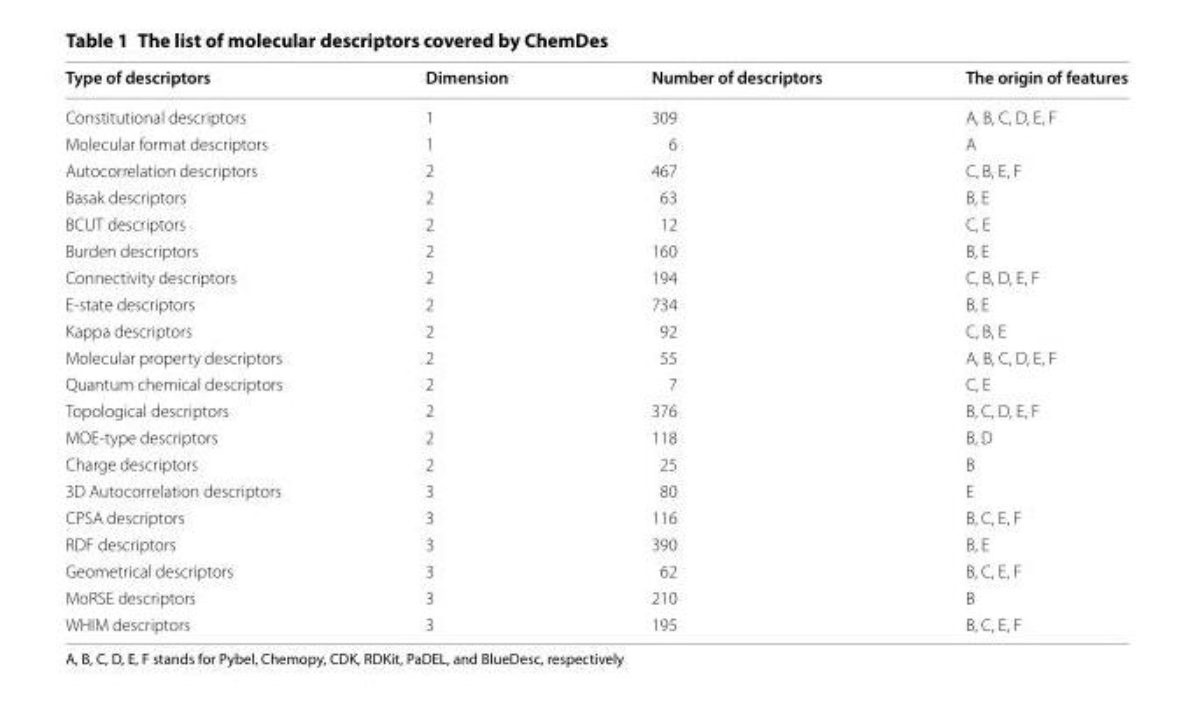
<table><thead><tr><td>Type of descriptors</td><td>Dimension</td><td>Number of descriptors</td><td>The origin of features</td></tr></thead><tbody><tr><td>Constitutional descriptors</td><td>1</td><td>309</td><td>A, B, C, D, E, F</td></tr><tr><td>Molecular format descriptors</td><td>1</td><td>6</td><td>A</td></tr><tr><td>Autocorrelation descriptors</td><td>2</td><td>467</td><td>C, B, E, F</td></tr><tr><td>Basak descriptors</td><td>2</td><td>63</td><td>B, E</td></tr><tr><td>BCUT descriptors</td><td>2</td><td>12</td><td>C, E</td></tr><tr><td>Burden descriptors</td><td>2</td><td>160</td><td>B, E</td></tr><tr><td>Connectivity descriptors</td><td>2</td><td>194</td><td>C, B, D, E, F</td></tr><tr><td>E‑state descriptors</td><td>2</td><td>734</td><td>B, E</td></tr><tr><td>Kappa descriptors</td><td>2</td><td>92</td><td>C, B, E</td></tr><tr><td>Molecular property descriptors</td><td>2</td><td>55</td><td>A, B, C, D, E, F</td></tr><tr><td>Quantum chemical descriptors</td><td>2</td><td>7</td><td>C, E</td></tr><tr><td>Topological descriptors</td><td>2</td><td>376</td><td>B, C, D, E, F</td></tr><tr><td>MOE‑type descriptors</td><td>2</td><td>118</td><td>B, D</td></tr><tr><td>Charge descriptors</td><td>2</td><td>25</td><td>B</td></tr><tr><td>3D Autocorrelation descriptors</td><td>3</td><td>80</td><td>E</td></tr><tr><td>CPSA descriptors</td><td>3</td><td>116</td><td>B, C, E, F</td></tr><tr><td>RDF descriptors</td><td>3</td><td>390</td><td>B, E</td></tr><tr><td>Geometrical descriptors</td><td>3</td><td>62</td><td>B, C, E, F</td></tr><tr><td>MoRSE descriptors</td><td>3</td><td>210</td><td>B</td></tr><tr><td>WHIM descriptors</td><td>3</td><td>195</td><td>B, C, E, F</td></tr></tbody></table>